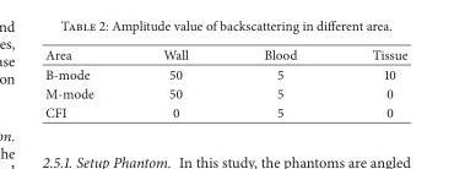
<table><thead><tr><td>Area</td><td>Wall</td><td>Blood</td><td>Tissue</td></tr></thead><tbody><tr><td>B-mode</td><td>50</td><td>5</td><td>10</td></tr><tr><td>M-mode</td><td>50</td><td>5</td><td>0</td></tr><tr><td>CFI</td><td>0</td><td>5</td><td>0</td></tr></tbody></table>